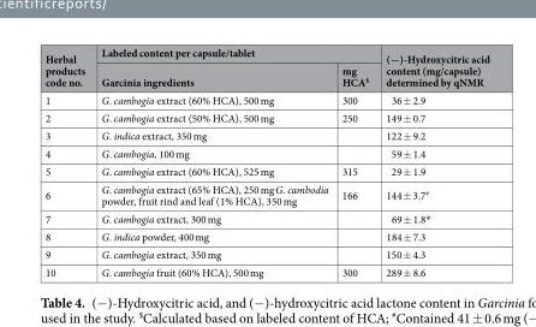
<table><thead><tr><td rowspan="2">Herbal products code no.</td><td colspan="2">Labeled content per capsule/tablet</td><td rowspan="2">(−)-Hydroxycitric acid content (mg/capsule) determined by qNMR</td></tr><tr><td>Garcinia ingredients</td><td>mg HCA<sup>$</sup></td></tr></thead><tbody><tr><td>1</td><td>G. cambogia extract (60% HCA), 500 mg</td><td>300</td><td>36 ± 2.9</td></tr><tr><td>2</td><td>G. cambogia extract (50% HCA), 500 mg</td><td>250</td><td>149 ± 0.7</td></tr><tr><td>3</td><td>G. indica extract, 350 mg</td><td></td><td>122 ± 9.2</td></tr><tr><td>4</td><td>G. cambogia, 100 mg</td><td></td><td>59 ± 1.4</td></tr><tr><td>5</td><td>G. cambogia extract (60% HCA), 525 mg</td><td>315</td><td>29 ± 1.9</td></tr><tr><td>6</td><td>G. cambogia extract (65% HCA), 250 mg G. cambodia powder, fruit rind and leaf (1% HCA), 350 mg</td><td>166</td><td>144 ± 3.7<sup>#</sup></td></tr><tr><td>7</td><td>G. cambogia extract, 300 mg</td><td></td><td>69 ± 1.8*</td></tr><tr><td>8</td><td>G. indica powder, 400 mg</td><td></td><td>184 ± 7.3</td></tr><tr><td>9</td><td>G. cambogia extract, 350 mg</td><td></td><td>150 ± 4.3</td></tr><tr><td>10</td><td>G. cambogia fruit (60% HCA), 500 mg</td><td>300</td><td>289 ± 8.6</td></tr></tbody></table>